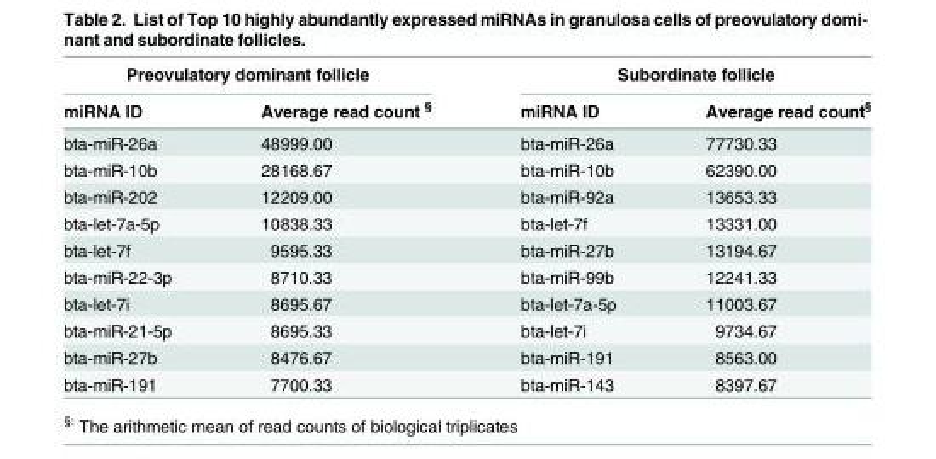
<table><thead><tr><td colspan="2">Preovulatory dominant follicle</td><td colspan="2">Subordinate follicle</td></tr><tr><td>miRNA ID</td><td>Average read count <sup>§</sup></td><td>miRNA ID</td><td>Average read count<sup>§</sup></td></tr></thead><tbody><tr><td>bta-miR-26a</td><td>48999.00</td><td>bta-miR-26a</td><td>77730.33</td></tr><tr><td>bta-miR-10b</td><td>28168.67</td><td>bta-miR-10b</td><td>62390.00</td></tr><tr><td>bta-miR-202</td><td>12209.00</td><td>bta-miR-92a</td><td>13653.33</td></tr><tr><td>bta-let-7a-5p</td><td>10838.33</td><td>bta-let-7f</td><td>13331.00</td></tr><tr><td>bta-let-7f</td><td>9595.33</td><td>bta-miR-27b</td><td>13194.67</td></tr><tr><td>bta-miR-22-3p</td><td>8710.33</td><td>bta-miR-99b</td><td>12241.33</td></tr><tr><td>bta-let-7i</td><td>8695.67</td><td>bta-let-7a-5p</td><td>11003.67</td></tr><tr><td>bta-miR-21-5p</td><td>8695.33</td><td>bta-let-7i</td><td>9734.67</td></tr><tr><td>bta-miR-27b</td><td>8476.67</td><td>bta-miR-191</td><td>8563.00</td></tr><tr><td>bta-miR-191</td><td>7700.33</td><td>bta-miR-143</td><td>8397.67</td></tr></tbody></table>